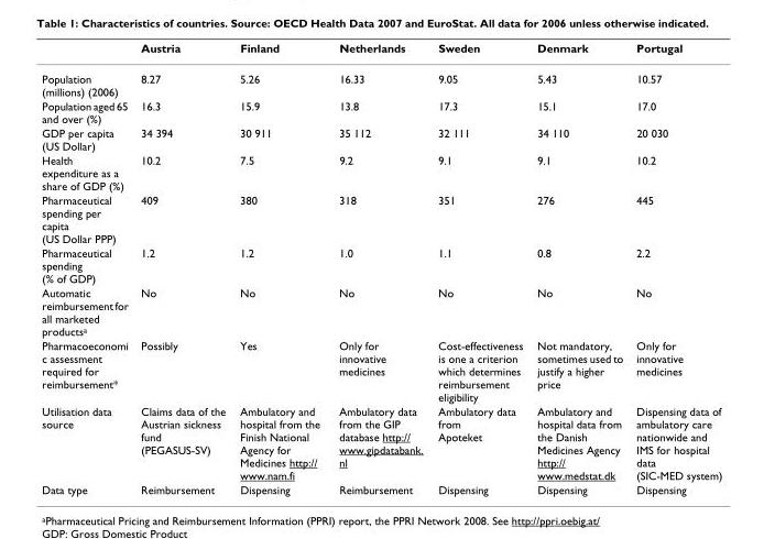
<table><thead><tr><td></td><td>Austria</td><td>Finland</td><td>Netherlands</td><td>Sweden</td><td>Denmark</td><td>Portugal</td></tr></thead><tbody><tr><td>Population (millions) (2006)</td><td>8.27</td><td>5.26</td><td>16.33</td><td>9.05</td><td>5.43</td><td>10.57</td></tr><tr><td>Population aged 65 and over (%)</td><td>16.3</td><td>15.9</td><td>13.8</td><td>17.3</td><td>15.1</td><td>17.0</td></tr><tr><td>GDP per capita (US Dollar)</td><td>34 394</td><td>30 911</td><td>35 112</td><td>32 111</td><td>34 110</td><td>20 030</td></tr><tr><td>Health expenditure as a share of GDP (%)</td><td>10.2</td><td>7.5</td><td>9.2</td><td>9.1</td><td>9.1</td><td>10.2</td></tr><tr><td>Pharmaceutical spending per capita (US Dollar PPP)</td><td>409</td><td>380</td><td>318</td><td>351</td><td>276</td><td>445</td></tr><tr><td>Pharmaceutical spending (% of GDP)</td><td>1.2</td><td>1.2</td><td>1.0</td><td>1.1</td><td>0.8</td><td>2.2</td></tr><tr><td>Automatic reimbursement for all marketed products<sup>a</sup></td><td>No</td><td>No</td><td>No</td><td>No</td><td>No</td><td>No</td></tr><tr><td>Pharmacoeconomi c assessment required for reimbursement*</td><td>Possibly</td><td>Yes</td><td>Only for innovative medicines</td><td>Cost-effectiveness is one a criterion which determines reimbursement eligibility</td><td>Not mandatory, sometimes used to justify a higher price</td><td>Only for innovative medicines</td></tr><tr><td>Utilisation data source</td><td>Claims data of the Austrian sickness fund (PEGASUS-SV)</td><td>Ambulatory and hospital from the Finish National Agency for Medicines http:// www.nam.fi</td><td>Ambulatory data from the GIP database http:// www.gipdatabank. nl</td><td>Ambulatory data from Apoteket</td><td>Ambulatory and hospital data from the Danish Medicines Agency http:// www.medstat.dk</td><td>Dispensing data of ambulatory care nationwide and IMS for hospital data (SIC-MED system)</td></tr><tr><td>Data type</td><td>Reimbursement</td><td>Dispensing</td><td>Reimbursement</td><td>Dispensing</td><td>Dispensing</td><td>Dispensing</td></tr></tbody></table>